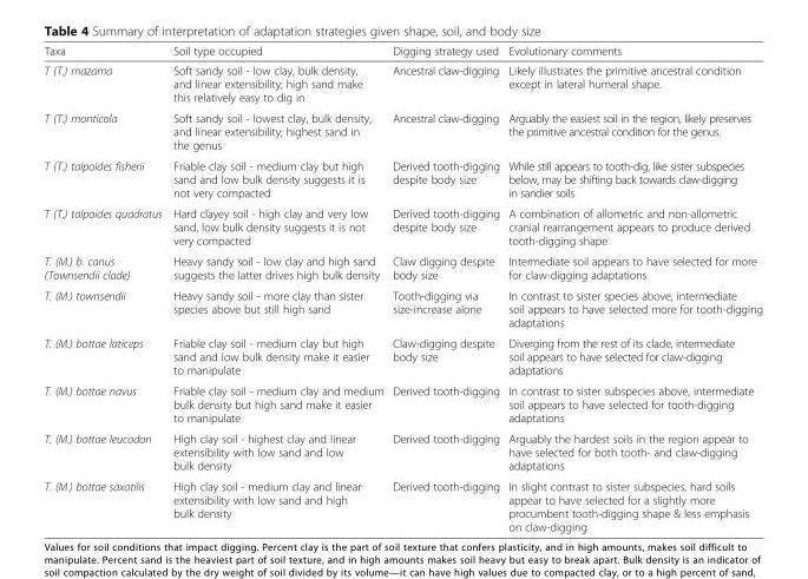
<table><thead><tr><td>Taxa</td><td>Soil type occupied</td><td>Digging strategy used</td><td>Evolutionary comments</td></tr></thead><tbody><tr><td>T (T.) mazama</td><td>Soft sandy soil - low clay, bulk density, and linear extensibility; high sand make this relatively easy to dig in</td><td>Ancestral claw-digging</td><td>Likely illustrates the primitive ancestral condition except in lateral humeral shape.</td></tr><tr><td>T (T.) monticola</td><td>Soft sandy soil - lowest clay, bulk density, and linear extensibility; highest sand in the genus</td><td>Ancestral claw-digging</td><td>Arguably the easiest soil in the region, likely preserves the primitive ancestral condition for the genus.</td></tr><tr><td>T (T.) talpoides fisherii</td><td>Friable clay soil - medium clay but high sand and low bulk density suggests it is not very compacted</td><td>Derived tooth-digging despite body size</td><td>While still appears to tooth-dig, like sister subspecies below, may be shifting back towards claw-digging in sandier soils</td></tr><tr><td>T (T.) talpoides quadratus</td><td>Hard clayey soil - high clay and very low sand, low bulk density suggests it is not very compacted</td><td>Derived tooth-digging despite body size</td><td>A combination of allometric and non-allometric cranial rearrangement appears to produce derived tooth-digging shape</td></tr><tr><td>T. (M.) b. canus (Townsendii clade)</td><td>Heavy sandy soil - low clay and high sand suggests the latter drives high bulk density</td><td>Claw digging despite body size</td><td>Intermediate soil appears to have selected for more for claw-digging adaptations</td></tr><tr><td>T. (M.) townsendii</td><td>Heavy sandy soil - more clay than sister species above but still high sand</td><td>Tooth-digging via size-increase alone</td><td>In contrast to sister species above, intermediate soil appears to have selected more for tooth-digging adaptations</td></tr><tr><td>T. (M.) bottae laticeps</td><td>Friable clay soil - medium clay but high sand and low bulk density make it easier to manipulate</td><td>Claw-digging despite body size</td><td>Diverging from the rest of its clade, intermediate soil appears to have selected for claw-digging adaptations</td></tr><tr><td>T. (M.) bottae navus</td><td>Friable clay soil - medium clay and medium bulk density but high sand make it easier to manipulate</td><td>Derived tooth-digging</td><td>In contrast to sister subspecies above, intermediate soil appears to have selected for tooth-digging adaptations</td></tr><tr><td>T. (M.) bottae leucodon</td><td>High clay soil - highest clay and linear extensibility with low sand and low bulk density</td><td>Derived tooth-digging</td><td>Arguably the hardest soils in the region appear to have selected for both tooth- and claw-digging adaptations</td></tr><tr><td>T. (M.) bottae saxatilis</td><td>High clay soil - medium clay and linear extensibility with low sand and high bulk density</td><td>Derived tooth-digging</td><td>In slight contrast to sister subspecies, hard soils appear to have selected for a slightly more procumbent tooth-digging shape &amp; less emphasis on claw-digging</td></tr></tbody></table>